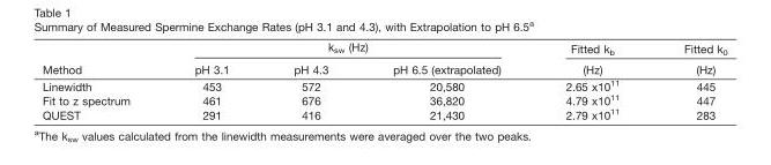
<table><thead><tr><td rowspan="2">Method</td><td colspan="3">k<sub>sw</sub> (Hz)</td><td rowspan="2">Fitted k<sub>b</sub> (Hz)</td><td rowspan="2">Fitted k<sub>0</sub> (Hz)</td></tr><tr><td>pH 3.1</td><td>pH 4.3</td><td>pH 6.5 (extrapolated)</td></tr></thead><tbody><tr><td>Linewidth</td><td>453</td><td>572</td><td>20,580</td><td>2.65 x10<sup>11</sup></td><td>445</td></tr><tr><td>Fit to z spectrum</td><td>461</td><td>676</td><td>36,820</td><td>4.79 x10<sup>11</sup></td><td>447</td></tr><tr><td>QUEST</td><td>291</td><td>416</td><td>21,430</td><td>2.79 x10<sup>11</sup></td><td>283</td></tr></tbody></table>